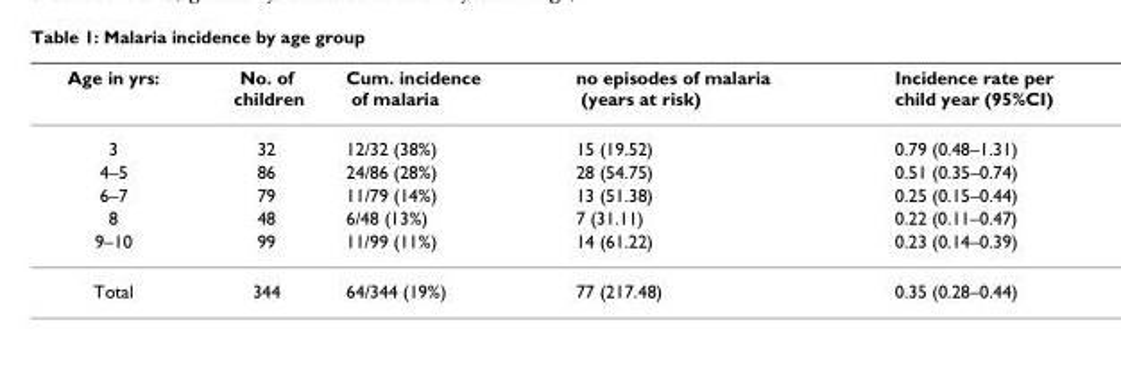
<table><thead><tr><td>Age in yrs:</td><td>No. of children</td><td>Cum. incidence of malaria</td><td>no episodes of malaria (years at risk)</td><td>Incidence rate per child year (95%CI)</td></tr></thead><tbody><tr><td>3</td><td>32</td><td>12/32 (38%)</td><td>15 (19.52)</td><td>0.79 (0.48–1.31)</td></tr><tr><td>4–5</td><td>86</td><td>24/86 (28%)</td><td>28 (54.75)</td><td>0.51 (0.35–0.74)</td></tr><tr><td>6–7</td><td>79</td><td>11/79 (14%)</td><td>13 (51.38)</td><td>0.25 (0.15–0.44)</td></tr><tr><td>8</td><td>48</td><td>6/48 (13%)</td><td>7 (31.11)</td><td>0.22 (0.11–0.47)</td></tr><tr><td>9–10</td><td>99</td><td>11/99 (11%)</td><td>14 (61.22)</td><td>0.23 (0.14–0.39)</td></tr><tr><td>Total</td><td>344</td><td>64/344 (19%)</td><td>77 (217.48)</td><td>0.35 (0.28–0.44)</td></tr></tbody></table>